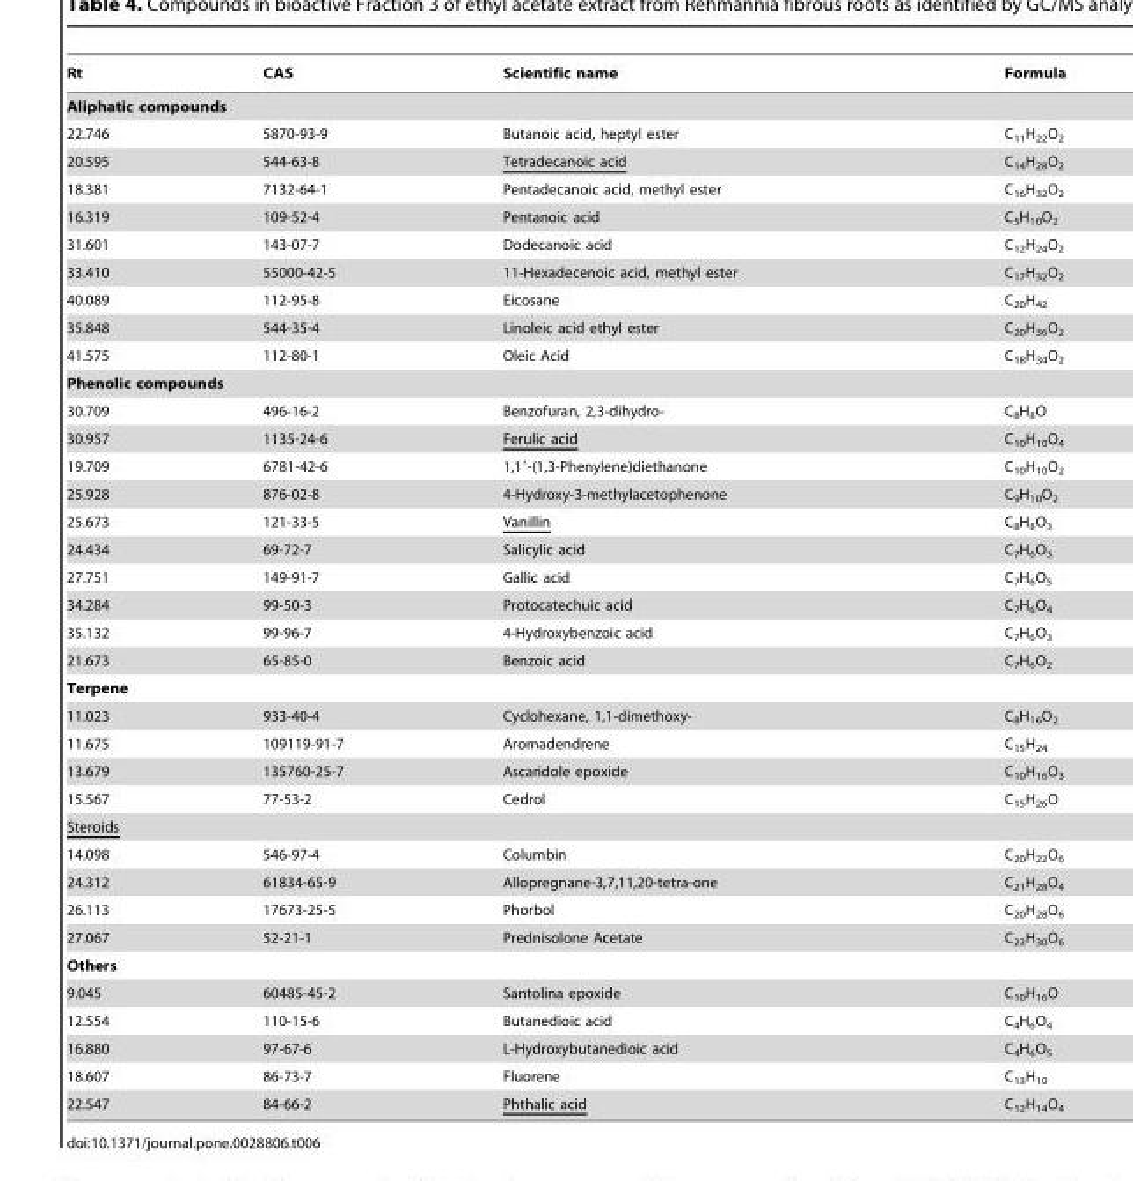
<table><thead><tr><td>Rt</td><td>CAS</td><td>Scientific name</td><td>Formula</td></tr></thead><tbody><tr><td colspan="4">Aliphatic compounds</td></tr><tr><td>22.746</td><td>5870-93-9</td><td>Butanoic acid, heptyl ester</td><td>C<sub>11</sub>H<sub>22</sub>O<sub>2</sub></td></tr><tr><td>20.595</td><td>544-63-8</td><td>Tetradecanoic acid</td><td>C<sub>14</sub>H<sub>28</sub>O<sub>2</sub></td></tr><tr><td>18.381</td><td>7132-64-1</td><td>Pentadecanoic acid, methyl ester</td><td>C<sub>16</sub>H<sub>32</sub>O<sub>2</sub></td></tr><tr><td>16.319</td><td>109-52-4</td><td>Pentanoic acid</td><td>C<sub>5</sub>H<sub>10</sub>O<sub>2</sub></td></tr><tr><td>31.601</td><td>143-07-7</td><td>Dodecanoic acid</td><td>C<sub>12</sub>H<sub>24</sub>O<sub>2</sub></td></tr><tr><td>33.410</td><td>55000-42-5</td><td>11-Hexadecenoic acid, methyl ester</td><td>C<sub>17</sub>H<sub>32</sub>O<sub>2</sub></td></tr><tr><td>40.089</td><td>112-95-8</td><td>Eicosane</td><td>C<sub>20</sub>H<sub>42</sub></td></tr><tr><td>35.848</td><td>544-35-4</td><td>Linoleic acid ethyl ester</td><td>C<sub>20</sub>H<sub>36</sub>O<sub>2</sub></td></tr><tr><td>41.575</td><td>112-80-1</td><td>Oleic Acid</td><td>C<sub>18</sub>H<sub>34</sub>O<sub>2</sub></td></tr><tr><td colspan="4">Phenolic compounds</td></tr><tr><td>30.709</td><td>496-16-2</td><td>Benzofuran, 2,3-dihydro-</td><td>C<sub>8</sub>H<sub>8</sub>O</td></tr><tr><td>30.957</td><td>1135-24-6</td><td>Ferulic acid</td><td>C<sub>10</sub>H<sub>10</sub>O<sub>4</sub></td></tr><tr><td>19.709</td><td>6781-42-6</td><td>1,1′-(1,3-Phenylene)diethanone</td><td>C<sub>10</sub>H<sub>10</sub>O<sub>2</sub></td></tr><tr><td>25.928</td><td>876-02-8</td><td>4-Hydroxy-3-methylacetophenone</td><td>C<sub>9</sub>H<sub>10</sub>O<sub>2</sub></td></tr><tr><td>25.673</td><td>121-33-5</td><td>Vanillin</td><td>C<sub>8</sub>H<sub>8</sub>O<sub>3</sub></td></tr><tr><td>24.434</td><td>69-72-7</td><td>Salicylic acid</td><td>C<sub>7</sub>H<sub>6</sub>O<sub>3</sub></td></tr><tr><td>27.751</td><td>149-91-7</td><td>Gallic acid</td><td>C<sub>7</sub>H<sub>6</sub>O<sub>5</sub></td></tr><tr><td>34.284</td><td>99-50-3</td><td>Protocatechuic acid</td><td>C<sub>7</sub>H<sub>6</sub>O<sub>4</sub></td></tr><tr><td>35.132</td><td>99-96-7</td><td>4-Hydroxybenzoic acid</td><td>C<sub>7</sub>H<sub>6</sub>O<sub>3</sub></td></tr><tr><td>21.673</td><td>65-85-0</td><td>Benzoic acid</td><td>C<sub>7</sub>H<sub>6</sub>O<sub>2</sub></td></tr><tr><td colspan="4">Terpene</td></tr><tr><td>11.023</td><td>933-40-4</td><td>Cyclohexane, 1,1-dimethoxy-</td><td>C<sub>8</sub>H<sub>16</sub>O<sub>2</sub></td></tr><tr><td>11.675</td><td>109119-91-7</td><td>Aromadendrene</td><td>C<sub>15</sub>H<sub>24</sub></td></tr><tr><td>13.679</td><td>135760-25-7</td><td>Ascaridole epoxide</td><td>C<sub>10</sub>H<sub>16</sub>O<sub>3</sub></td></tr><tr><td>15.567</td><td>77-53-2</td><td>Cedrol</td><td>C<sub>15</sub>H<sub>26</sub>O</td></tr><tr><td colspan="4">Steroids</td></tr><tr><td>14.098</td><td>546-97-4</td><td>Columbin</td><td>C<sub>20</sub>H<sub>22</sub>O<sub>6</sub></td></tr><tr><td>24.312</td><td>61834-65-9</td><td>Allopregnane-3,7,11,20-tetra-one</td><td>C<sub>21</sub>H<sub>28</sub>O<sub>4</sub></td></tr><tr><td>26.113</td><td>17673-25-5</td><td>Phorbol</td><td>C<sub>20</sub>H<sub>28</sub>O<sub>6</sub></td></tr><tr><td>27.067</td><td>52-21-1</td><td>Prednisolone Acetate</td><td>C<sub>23</sub>H<sub>30</sub>O<sub>6</sub></td></tr><tr><td colspan="4">Others</td></tr><tr><td>9.045</td><td>60485-45-2</td><td>Santolina epoxide</td><td>C<sub>10</sub>H<sub>16</sub>O</td></tr><tr><td>12.554</td><td>110-15-6</td><td>Butanedioic acid</td><td>C<sub>4</sub>H<sub>6</sub>O<sub>4</sub></td></tr><tr><td>16.880</td><td>97-67-6</td><td>L-Hydroxybutanedioic acid</td><td>C<sub>4</sub>H<sub>6</sub>O<sub>5</sub></td></tr><tr><td>18.607</td><td>86-73-7</td><td>Fluorene</td><td>C<sub>13</sub>H<sub>10</sub></td></tr><tr><td>22.547</td><td>84-66-2</td><td>Phthalic acid</td><td>C<sub>12</sub>H<sub>14</sub>O<sub>4</sub></td></tr></tbody></table>